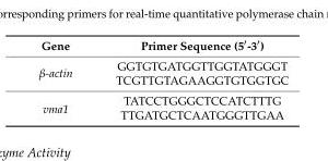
<table><thead><tr><td>Gene</td><td>Primer Sequence (5′-3′)</td></tr></thead><tbody><tr><td rowspan="2">β-actin</td><td>GGTGTGATGGTTGGTATGGGT</td></tr><tr><td>TCGTTGTAGAAGGTGTGGTGC</td></tr><tr><td rowspan="2">vma1</td><td>TATCCTGGGCTCCATCTTTG</td></tr><tr><td>TTGATGCTCAATGGGTTGAA</td></tr></tbody></table>